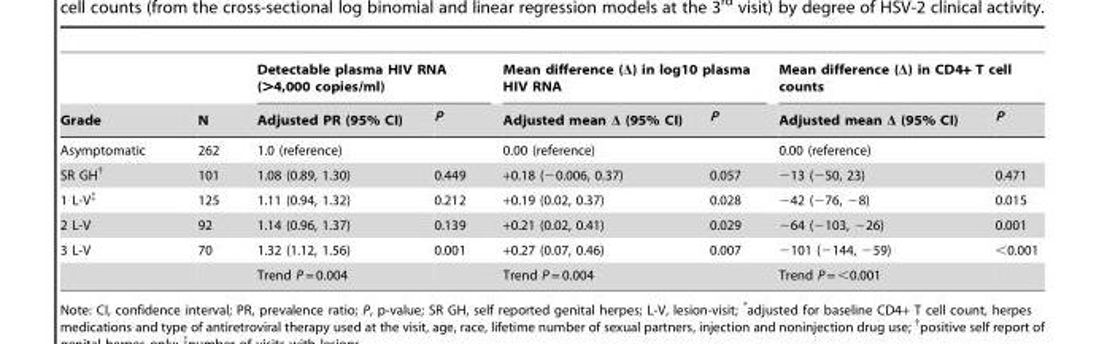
<table><thead><tr><td rowspan="2">Grade</td><td rowspan="2">N</td><td colspan="2">Detectable plasma HIV RNA (&gt;4,000 copies/ml)</td><td colspan="2">Mean difference (Δ) in log10 plasma HIV RNA</td><td colspan="2">Mean difference (Δ) in CD4+ T cell counts</td></tr><tr><td>Adjusted PR (95% CI)</td><td>P</td><td>Adjusted mean Δ (95% CI)</td><td>P</td><td>Adjusted mean Δ (95% CI)</td><td>P</td></tr></thead><tbody><tr><td>Asymptomatic</td><td>262</td><td>1.0 (reference)</td><td></td><td>0.00 (reference)</td><td></td><td>0.00 (reference)</td><td></td></tr><tr><td>SR GH<sup>†</sup></td><td>101</td><td>1.08 (0.89, 1.30)</td><td>0.449</td><td>+0.18 (−0.006, 0.37)</td><td>0.057</td><td>−13 (−50, 23)</td><td>0.471</td></tr><tr><td>1 L-V<sup>‡</sup></td><td>125</td><td>1.11 (0.94, 1.32)</td><td>0.212</td><td>+0.19 (0.02, 0.37)</td><td>0.028</td><td>−42 (−76, −8)</td><td>0.015</td></tr><tr><td>2 L-V</td><td>92</td><td>1.14 (0.96, 1.37)</td><td>0.139</td><td>+0.21 (0.02, 0.41)</td><td>0.029</td><td>−64 (−103, −26)</td><td>0.001</td></tr><tr><td rowspan="2">3 L-V</td><td>70</td><td>1.32 (1.12, 1.56)</td><td>0.001</td><td>+0.27 (0.07, 0.46)</td><td>0.007</td><td>−101 (−144, −59)</td><td>&lt;0.001</td></tr><tr><td></td><td>Trend P = 0.004</td><td></td><td>Trend P = 0.004</td><td></td><td>Trend P = &lt;0.001</td><td></td></tr></tbody></table>